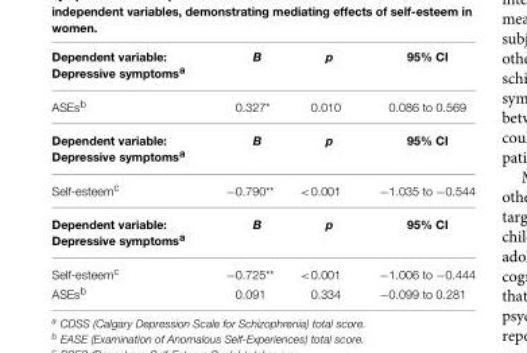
<table><thead><tr><td>Dependent variable: Depressive symptoms<sup>a</sup></td><td>B</td><td>p</td><td>95% CI</td></tr></thead><tbody><tr><td>ASEs<sup>b</sup></td><td>0.327*</td><td>0.010</td><td>0.086 to 0.569</td></tr><tr><td>Dependent variable: Depressive symptoms<sup>a</sup></td><td>B</td><td>p</td><td>95% CI</td></tr><tr><td>Self-esteem<sup>c</sup></td><td>−0.790**</td><td>&lt;0.001</td><td>−1.035 to −0.544</td></tr><tr><td>Dependent variable: Depressive symptoms<sup>a</sup></td><td>B</td><td>p</td><td>95% CI</td></tr><tr><td>Self-esteem<sup>c</sup></td><td>−0.725**</td><td>&lt;0.001</td><td>−1.006 to −0.444</td></tr><tr><td>ASEs<sup>b</sup></td><td>0.091</td><td>0.334</td><td>−0.099 to 0.281</td></tr></tbody></table>